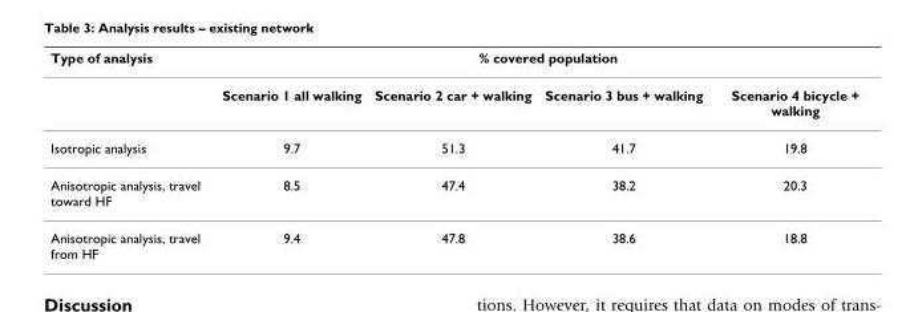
<table><thead><tr><td rowspan="2">Type of analysis</td><td colspan="4">% covered population</td></tr><tr><td>Scenario 1 all walking</td><td>Scenario 2 car + walking</td><td>Scenario 3 bus + walking</td><td>Scenario 4 bicycle + walking</td></tr></thead><tbody><tr><td>Isotropic analysis</td><td>9.7</td><td>51.3</td><td>41.7</td><td>19.8</td></tr><tr><td>Anisotropic analysis, travel toward HF</td><td>8.5</td><td>47.4</td><td>38.2</td><td>20.3</td></tr><tr><td>Anisotropic analysis, travel from HF</td><td>9.4</td><td>47.8</td><td>38.6</td><td>18.8</td></tr></tbody></table>